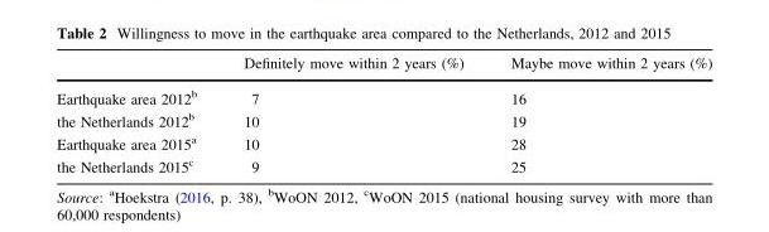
<table><thead><tr><td></td><td>Definitely move within 2 years (%)</td><td>Maybe move within 2 years (%)</td></tr></thead><tbody><tr><td>Earthquake area 2012<sup>b</sup></td><td>7</td><td>16</td></tr><tr><td>the Netherlands 2012<sup>b</sup></td><td>10</td><td>19</td></tr><tr><td>Earthquake area 2015<sup>a</sup></td><td>10</td><td>28</td></tr><tr><td>the Netherlands 2015<sup>c</sup></td><td>9</td><td>25</td></tr></tbody></table>